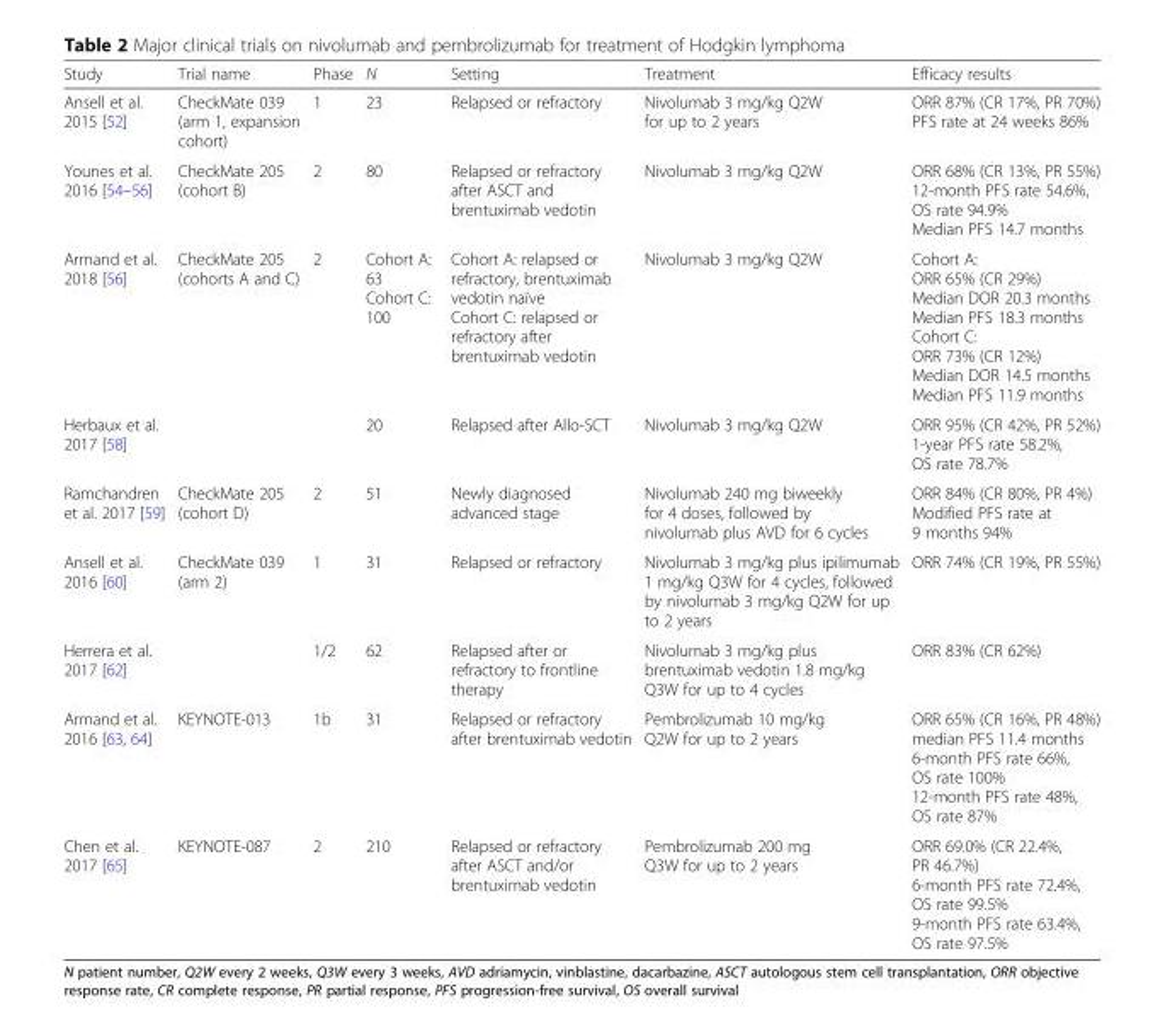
<table><thead><tr><td>Study</td><td>Trial name</td><td>Phase</td><td>N</td><td>Setting</td><td>Treatment</td><td>Efficacy results</td></tr></thead><tbody><tr><td>Ansell et al. 2015 [52]</td><td>CheckMate 039 (arm 1, expansion cohort)</td><td>1</td><td>23</td><td>Relapsed or refractory</td><td>Nivolumab 3 mg/kg Q2W for up to 2 years</td><td>ORR 87% (CR 17%, PR 70%) PFS rate at 24 weeks 86%</td></tr><tr><td>Younes et al. 2016 [54–56]</td><td>CheckMate 205 (cohort B)</td><td>2</td><td>80</td><td>Relapsed or refractory after ASCT and brentuximab vedotin</td><td>Nivolumab 3 mg/kg Q2W</td><td>ORR 68% (CR 13%, PR 55%) 12-month PFS rate 54.6%, OS rate 94.9% Median PFS 14.7 months</td></tr><tr><td>Armand et al. 2018 [56]</td><td>CheckMate 205 (cohorts A and C)</td><td>2</td><td>Cohort A: 63 Cohort C: 100</td><td>Cohort A: relapsed or refractory, brentuximab vedotin naïve Cohort C: relapsed or refractory after brentuximab vedotin</td><td>Nivolumab 3 mg/kg Q2W</td><td>Cohort A: ORR 65% (CR 29%) Median DOR 20.3 months Median PFS 18.3 months Cohort C: ORR 73% (CR 12%) Median DOR 14.5 months Median PFS 11.9 months</td></tr><tr><td>Herbaux et al. 2017 [58]</td><td></td><td></td><td>20</td><td>Relapsed after Allo-SCT</td><td>Nivolumab 3 mg/kg Q2W</td><td>ORR 95% (CR 42%, PR 52%) 1-year PFS rate 58.2%, OS rate 78.7%</td></tr><tr><td>Ramchandren et al. 2017 [59]</td><td>CheckMate 205 (cohort D)</td><td>2</td><td>51</td><td>Newly diagnosed advanced stage</td><td>Nivolumab 240 mg biweekly for 4 doses, followed by nivolumab plus AVD for 6 cycles</td><td>ORR 84% (CR 80%, PR 4%) Modified PFS rate at 9 months 94%</td></tr><tr><td>Ansell et al. 2016 [60]</td><td>CheckMate 039 (arm 2)</td><td>1</td><td>31</td><td>Relapsed or refractory</td><td>Nivolumab 3 mg/kg plus ipilimumab 1 mg/kg Q3W for 4 cycles, followed by nivolumab 3 mg/kg Q2W for up to 2 years</td><td>ORR 74% (CR 19%, PR 55%)</td></tr><tr><td>Herrera et al. 2017 [62]</td><td></td><td>1/2</td><td>62</td><td>Relapsed after or refractory to frontline therapy</td><td>Nivolumab 3 mg/kg plus brentuximab vedotin 1.8 mg/kg Q3W for up to 4 cycles</td><td>ORR 83% (CR 62%)</td></tr><tr><td>Armand et al. 2016 [63, 64]</td><td>KEYNOTE-013</td><td>1b</td><td>31</td><td>Relapsed or refractory after brentuximab vedotin</td><td>Pembrolizumab 10 mg/kg Q2W for up to 2 years</td><td>ORR 65% (CR 16%, PR 48%) median PFS 11.4 months 6-month PFS rate 66%, OS rate 100% 12-month PFS rate 48%, OS rate 87%</td></tr><tr><td>Chen et al. 2017 [65]</td><td>KEYNOTE-087</td><td>2</td><td>210</td><td>Relapsed or refractory after ASCT and/or brentuximab vedotin</td><td>Pembrolizumab 200 mg Q3W for up to 2 years</td><td>ORR 69.0% (CR 22.4%, PR 46.7%) 6-month PFS rate 72.4%, OS rate 99.5% 9-month PFS rate 63.4%, OS rate 97.5%</td></tr></tbody></table>